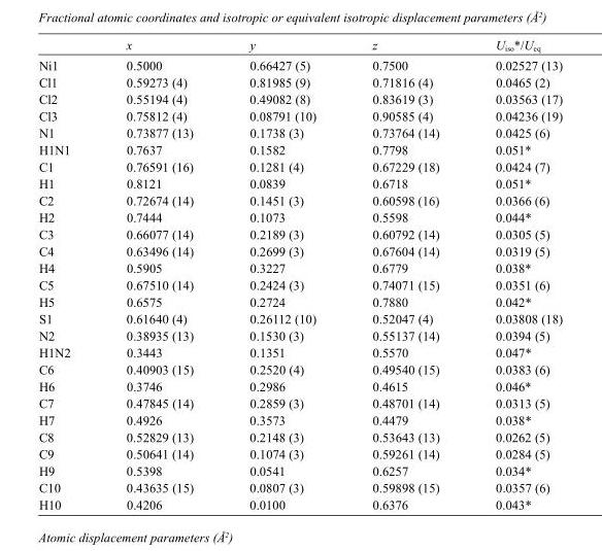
<table><thead><tr><td></td><td>x</td><td>y</td><td>z</td><td>U<sub>iso</sub>*/U<sub>eq</sub></td></tr></thead><tbody><tr><td>Ni1</td><td>0.5000</td><td>0.66427 (5)</td><td>0.7500</td><td>0.02527 (13)</td></tr><tr><td>Cl1</td><td>0.59273 (4)</td><td>0.81985 (9)</td><td>0.71816 (4)</td><td>0.0465 (2)</td></tr><tr><td>Cl2</td><td>0.55194 (4)</td><td>0.49082 (8)</td><td>0.83619 (3)</td><td>0.03563 (17)</td></tr><tr><td>Cl3</td><td>0.75812 (4)</td><td>0.08791 (10)</td><td>0.90585 (4)</td><td>0.04236 (19)</td></tr><tr><td>N1</td><td>0.73877 (13)</td><td>0.1738 (3)</td><td>0.73764 (14)</td><td>0.0425 (6)</td></tr><tr><td>H1N1</td><td>0.7637</td><td>0.1582</td><td>0.7798</td><td>0.051*</td></tr><tr><td>C1</td><td>0.76591 (16)</td><td>0.1281 (4)</td><td>0.67229 (18)</td><td>0.0424 (7)</td></tr><tr><td>H1</td><td>0.8121</td><td>0.0839</td><td>0.6718</td><td>0.051*</td></tr><tr><td>C2</td><td>0.72674 (14)</td><td>0.1451 (3)</td><td>0.60598 (16)</td><td>0.0366 (6)</td></tr><tr><td>H2</td><td>0.7444</td><td>0.1073</td><td>0.5598</td><td>0.044*</td></tr><tr><td>C3</td><td>0.66077 (14)</td><td>0.2189 (3)</td><td>0.60792 (14)</td><td>0.0305 (5)</td></tr><tr><td>C4</td><td>0.63496 (14)</td><td>0.2699 (3)</td><td>0.67604 (14)</td><td>0.0319 (5)</td></tr><tr><td>H4</td><td>0.5905</td><td>0.3227</td><td>0.6779</td><td>0.038*</td></tr><tr><td>C5</td><td>0.67510 (14)</td><td>0.2424 (3)</td><td>0.74071 (15)</td><td>0.0351 (6)</td></tr><tr><td>H5</td><td>0.6575</td><td>0.2724</td><td>0.7880</td><td>0.042*</td></tr><tr><td>S1</td><td>0.61640 (4)</td><td>0.26112 (10)</td><td>0.52047 (4)</td><td>0.03808 (18)</td></tr><tr><td>N2</td><td>0.38935 (13)</td><td>0.1530 (3)</td><td>0.55137 (14)</td><td>0.0394 (5)</td></tr><tr><td>H1N2</td><td>0.3443</td><td>0.1351</td><td>0.5570</td><td>0.047*</td></tr><tr><td>C6</td><td>0.40903 (15)</td><td>0.2520 (4)</td><td>0.49540 (15)</td><td>0.0383 (6)</td></tr><tr><td>H6</td><td>0.3746</td><td>0.2986</td><td>0.4615</td><td>0.046*</td></tr><tr><td>C7</td><td>0.47845 (14)</td><td>0.2859 (3)</td><td>0.48701 (14)</td><td>0.0313 (5)</td></tr><tr><td>H7</td><td>0.4926</td><td>0.3573</td><td>0.4479</td><td>0.038*</td></tr><tr><td>C8</td><td>0.52829 (13)</td><td>0.2148 (3)</td><td>0.53643 (13)</td><td>0.0262 (5)</td></tr><tr><td>C9</td><td>0.50641 (14)</td><td>0.1074 (3)</td><td>0.59261 (14)</td><td>0.0284 (5)</td></tr><tr><td>H9</td><td>0.5398</td><td>0.0541</td><td>0.6257</td><td>0.034*</td></tr><tr><td>C10</td><td>0.43635 (15)</td><td>0.0807 (3)</td><td>0.59898 (15)</td><td>0.0357 (6)</td></tr><tr><td>H10</td><td>0.4206</td><td>0.0100</td><td>0.6376</td><td>0.043*</td></tr></tbody></table>